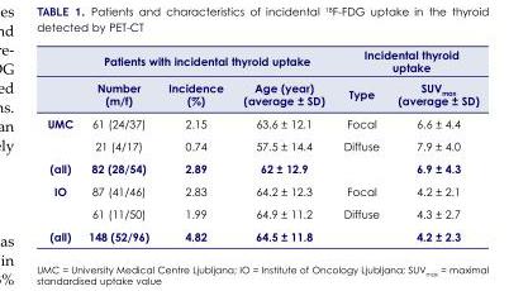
<table><thead><tr><td rowspan="2"></td><td colspan="3">Patients with incidental thyroid uptake</td><td colspan="2">Incidental thyroid uptake</td></tr><tr><td>Number (m/f)</td><td>Incidence (%)</td><td>Age (year) (average ± SD)</td><td>Type</td><td>SUV<sub>max</sub> (average ± SD)</td></tr></thead><tbody><tr><td rowspan="2">UMC</td><td>61 (24/37)</td><td>2.15</td><td>63.6 ± 12.1</td><td>Focal</td><td>6.6 ± 4.4</td></tr><tr><td>21 (4/17)</td><td>0.74</td><td>57.5 ± 14.4</td><td>Diffuse</td><td>7.9 ± 4.0</td></tr><tr><td>(all)</td><td>82 (28/54)</td><td>2.89</td><td>62 ± 12.9</td><td></td><td>6.9 ± 4.3</td></tr><tr><td rowspan="2">IO</td><td>87 (41/46)</td><td>2.83</td><td>64.2 ± 12.3</td><td>Focal</td><td>4.2 ± 2.1</td></tr><tr><td>61 (11/50)</td><td>1.99</td><td>64.9 ± 11.2</td><td>Diffuse</td><td>4.3 ± 2.7</td></tr><tr><td>(all)</td><td>148 (52/96)</td><td>4.82</td><td>64.5 ± 11.8</td><td></td><td>4.2 ± 2.3</td></tr></tbody></table>